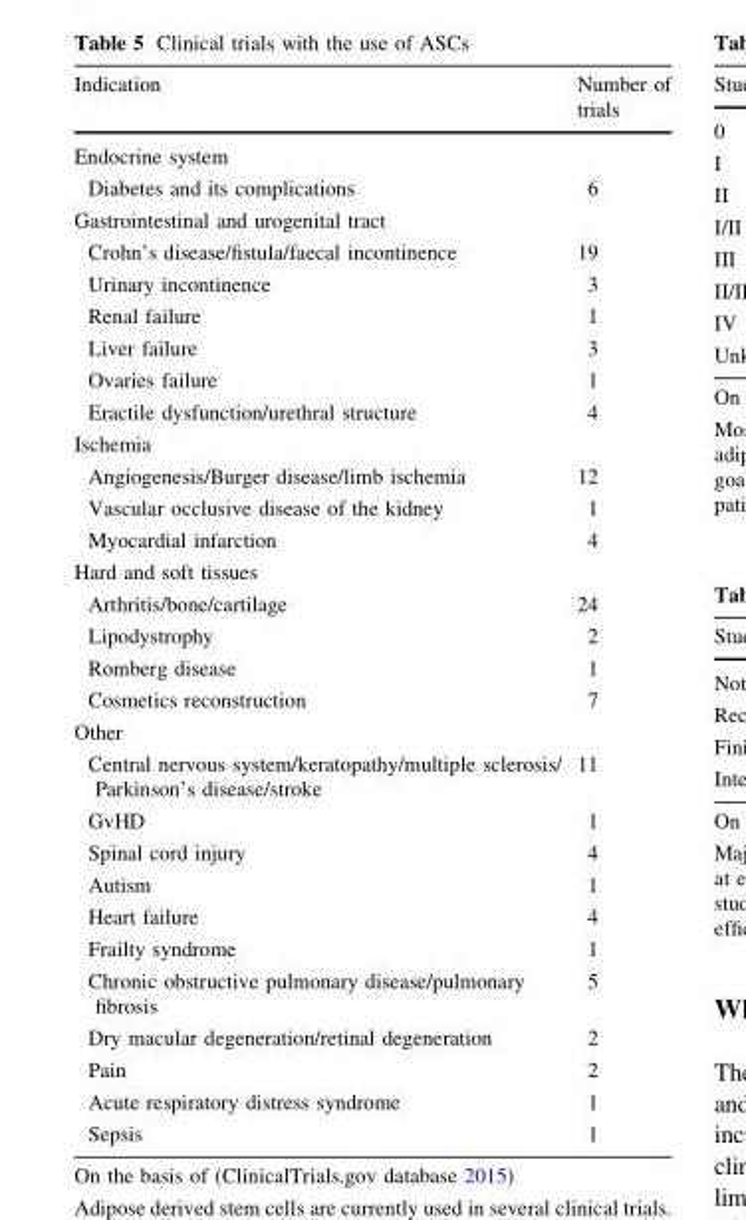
<table><thead><tr><td>Indication</td><td>Number of trials</td></tr></thead><tbody><tr><td colspan="2">Endocrine system</td></tr><tr><td>Diabetes and its complications</td><td>6</td></tr><tr><td colspan="2">Gastrointestinal and urogenital tract</td></tr><tr><td>Crohn’s disease/fistula/faecal incontinence</td><td>19</td></tr><tr><td>Urinary incontinence</td><td>3</td></tr><tr><td>Renal failure</td><td>1</td></tr><tr><td>Liver failure</td><td>3</td></tr><tr><td>Ovaries failure</td><td>1</td></tr><tr><td>Eractile dysfunction/urethral structure</td><td>4</td></tr><tr><td colspan="2">Ischemia</td></tr><tr><td>Angiogenesis/Burger disease/limb ischemia</td><td>12</td></tr><tr><td>Vascular occlusive disease of the kidney</td><td>1</td></tr><tr><td>Myocardial infarction</td><td>4</td></tr><tr><td colspan="2">Hard and soft tissues</td></tr><tr><td>Arthritis/bone/cartilage</td><td>24</td></tr><tr><td>Lipodystrophy</td><td>2</td></tr><tr><td>Romberg disease</td><td>1</td></tr><tr><td>Cosmetics reconstruction</td><td>7</td></tr><tr><td colspan="2">Other</td></tr><tr><td>Central nervous system/keratopathy/multiple sclerosis/ Parkinson’s disease/stroke</td><td>11</td></tr><tr><td>GvHD</td><td>1</td></tr><tr><td>Spinal cord injury</td><td>4</td></tr><tr><td>Autism</td><td>1</td></tr><tr><td>Heart failure</td><td>4</td></tr><tr><td>Frailty syndrome</td><td>1</td></tr><tr><td>Chronic obstructive pulmonary disease/pulmonary fibrosis</td><td>5</td></tr><tr><td>Dry macular degeneration/retinal degeneration</td><td>2</td></tr><tr><td>Pain</td><td>2</td></tr><tr><td>Acute respiratory distress syndrome</td><td>1</td></tr><tr><td>Sepsis</td><td>1</td></tr></tbody></table>